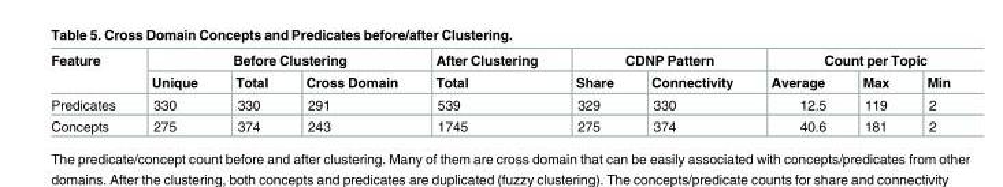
<table><thead><tr><td rowspan="2">Feature</td><td colspan="3">Before Clustering</td><td rowspan="2">After Clustering Total</td><td colspan="2">CDNP Pattern</td><td colspan="3">Count per Topic</td></tr><tr><td>Unique</td><td>Total</td><td>Cross Domain</td><td>Share</td><td>Connectivity</td><td>Average</td><td>Max</td><td>Min</td></tr></thead><tbody><tr><td>Predicates</td><td>330</td><td>330</td><td>291</td><td>539</td><td>329</td><td>330</td><td>12.5</td><td>119</td><td>2</td></tr><tr><td>Concepts</td><td>275</td><td>374</td><td>243</td><td>1745</td><td>275</td><td>374</td><td>40.6</td><td>181</td><td>2</td></tr></tbody></table>